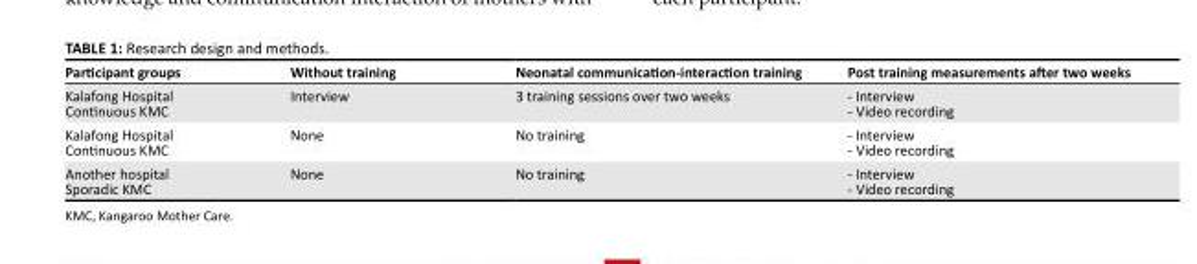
<table><thead><tr><td>Participant groups</td><td>Without training</td><td>Neonatal communication-interaction training</td><td>Post training measurements after two weeks</td></tr></thead><tbody><tr><td>Kalafong Hospital Continuous KMC</td><td>Interview</td><td>3 training sessions over two weeks</td><td>- Interview - Video recording</td></tr><tr><td>Kalafong Hospital Continuous KMC</td><td>None</td><td>No training</td><td>- Interview - Video recording</td></tr><tr><td>Another hospital Sporadic KMC</td><td>None</td><td>No training</td><td>- Interview - Video recording</td></tr></tbody></table>